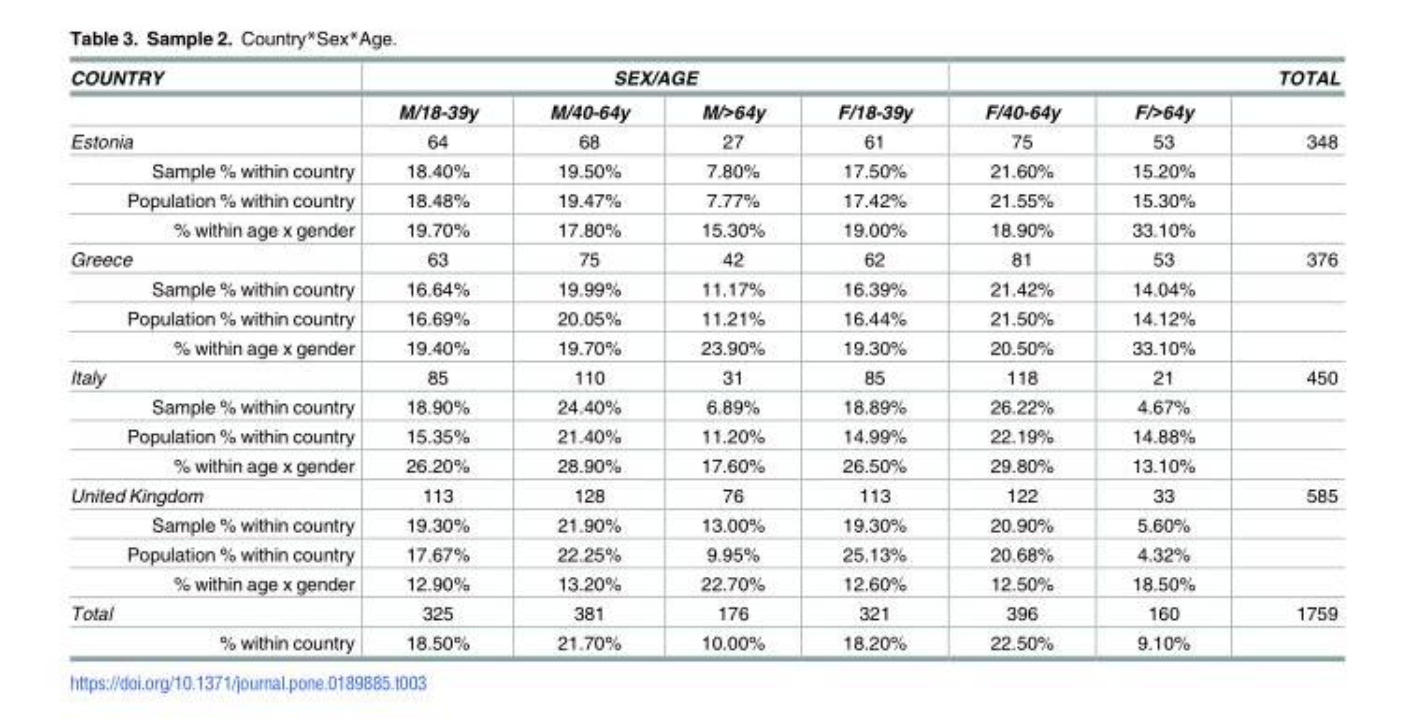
<table><thead><tr><td rowspan="2">COUNTRY</td><td colspan="4">SEX/AGE</td><td colspan="3">TOTAL</td></tr><tr><td>M/18-39y</td><td>M/40-64y</td><td>M/&gt;64y</td><td>F/18-39y</td><td>F/40-64y</td><td>F/&gt;64y</td><td></td></tr></thead><tbody><tr><td>Estonia</td><td>64</td><td>68</td><td>27</td><td>61</td><td>75</td><td>53</td><td>348</td></tr><tr><td>Sample % within country</td><td>18.40%</td><td>19.50%</td><td>7.80%</td><td>17.50%</td><td>21.60%</td><td>15.20%</td><td></td></tr><tr><td>Population % within country</td><td>18.48%</td><td>19.47%</td><td>7.77%</td><td>17.42%</td><td>21.55%</td><td>15.30%</td><td></td></tr><tr><td>% within age x gender</td><td>19.70%</td><td>17.80%</td><td>15.30%</td><td>19.00%</td><td>18.90%</td><td>33.10%</td><td></td></tr><tr><td>Greece</td><td>63</td><td>75</td><td>42</td><td>62</td><td>81</td><td>53</td><td>376</td></tr><tr><td>Sample % within country</td><td>16.64%</td><td>19.99%</td><td>11.17%</td><td>16.39%</td><td>21.42%</td><td>14.04%</td><td></td></tr><tr><td>Population % within country</td><td>16.69%</td><td>20.05%</td><td>11.21%</td><td>16.44%</td><td>21.50%</td><td>14.12%</td><td></td></tr><tr><td>% within age x gender</td><td>19.40%</td><td>19.70%</td><td>23.90%</td><td>19.30%</td><td>20.50%</td><td>33.10%</td><td></td></tr><tr><td>Italy</td><td>85</td><td>110</td><td>31</td><td>85</td><td>118</td><td>21</td><td>450</td></tr><tr><td>Sample % within country</td><td>18.90%</td><td>24.40%</td><td>6.89%</td><td>18.89%</td><td>26.22%</td><td>4.67%</td><td></td></tr><tr><td>Population % within country</td><td>15.35%</td><td>21.40%</td><td>11.20%</td><td>14.99%</td><td>22.19%</td><td>14.88%</td><td></td></tr><tr><td>% within age x gender</td><td>26.20%</td><td>28.90%</td><td>17.60%</td><td>26.50%</td><td>29.80%</td><td>13.10%</td><td></td></tr><tr><td>United Kingdom</td><td>113</td><td>128</td><td>76</td><td>113</td><td>122</td><td>33</td><td>585</td></tr><tr><td>Sample % within country</td><td>19.30%</td><td>21.90%</td><td>13.00%</td><td>19.30%</td><td>20.90%</td><td>5.60%</td><td></td></tr><tr><td>Population % within country</td><td>17.67%</td><td>22.25%</td><td>9.95%</td><td>25.13%</td><td>20.68%</td><td>4.32%</td><td></td></tr><tr><td>% within age x gender</td><td>12.90%</td><td>13.20%</td><td>22.70%</td><td>12.60%</td><td>12.50%</td><td>18.50%</td><td></td></tr><tr><td>Total</td><td>325</td><td>381</td><td>176</td><td>321</td><td>396</td><td>160</td><td>1759</td></tr><tr><td>% within country</td><td>18.50%</td><td>21.70%</td><td>10.00%</td><td>18.20%</td><td>22.50%</td><td>9.10%</td><td></td></tr></tbody></table>